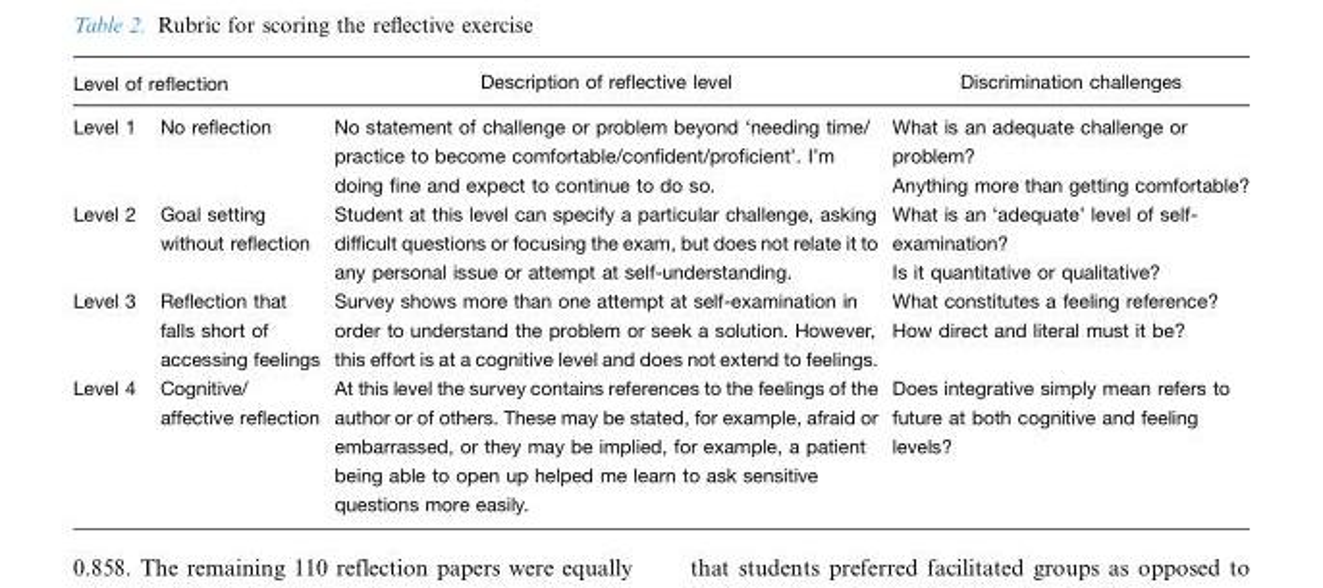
<table><thead><tr><td colspan="2">Level of reflection</td><td rowspan="2">Description of reflective level No statement of challenge or problem beyond ‘needing time/ practice to become comfortable/confident/proficient’. I’m doing fine and expect to continue to do so.</td><td rowspan="2">Discrimination challenges What is an adequate challenge or problem? Anything more than getting comfortable?</td></tr><tr><td>Level 1</td><td>No reflection</td></tr></thead><tbody><tr><td>Level 2</td><td>Goal setting without reflection</td><td>Student at this level can specify a particular challenge, asking difficult questions or focusing the exam, but does not relate it to any personal issue or attempt at self-understanding.</td><td>What is an ‘adequate’ level of self- examination? Is it quantitative or qualitative?</td></tr><tr><td>Level 3</td><td>Reflection that falls short of accessing feelings</td><td>Survey shows more than one attempt at self-examination in order to understand the problem or seek a solution. However, this effort is at a cognitive level and does not extend to feelings.</td><td>What constitutes a feeling reference? How direct and literal must it be?</td></tr><tr><td>Level 4</td><td>Cognitive/ affective reflection</td><td>At this level the survey contains references to the feelings of the author or of others. These may be stated, for example, afraid or embarrassed, or they may be implied, for example, a patient being able to open up helped me learn to ask sensitive questions more easily.</td><td>Does integrative simply mean refers to future at both cognitive and feeling levels?</td></tr></tbody></table>